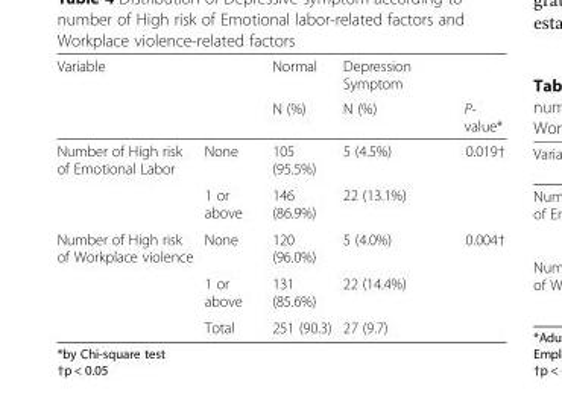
<table><thead><tr><td rowspan="2">Variable</td><td rowspan="2"></td><td rowspan="2">Normal N (%)</td><td rowspan="2">Depression Symptom N (%)</td><td rowspan="2">P- value*</td></tr><tr></tr></thead><tbody><tr><td rowspan="2">Number of High risk of Emotional Labor</td><td>None</td><td>105 (95.5%)</td><td>5 (4.5%)</td><td>0.019†</td></tr><tr><td>1 or above</td><td>146 (86.9%)</td><td>22 (13.1%)</td><td></td></tr><tr><td rowspan="3">Number of High risk of Workplace violence</td><td>None</td><td>120 (96.0%)</td><td>5 (4.0%)</td><td>0.004†</td></tr><tr><td>1 or above</td><td>131 (85.6%)</td><td>22 (14.4%)</td><td></td></tr><tr><td>Total</td><td>251 (90.3)</td><td>27 (9.7)</td><td></td></tr></tbody></table>